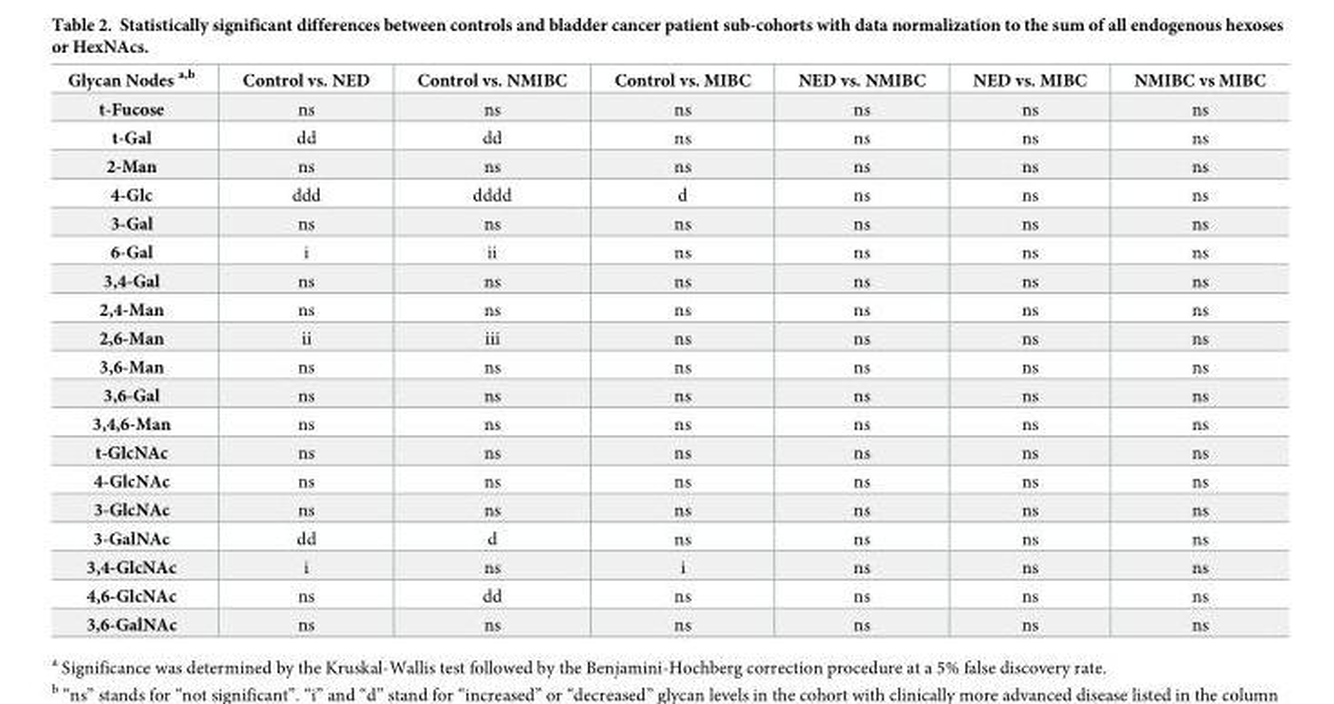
<table><thead><tr><td>Glycan Nodes <sup>a,b</sup></td><td>Control vs. NED</td><td>Control vs. NMIBC</td><td>Control vs. MIBC</td><td>NED vs. NMIBC</td><td>NED vs. MIBC</td><td>NMIBC vs MIBC</td></tr></thead><tbody><tr><td>t-Fucose</td><td>ns</td><td>ns</td><td>ns</td><td>ns</td><td>ns</td><td>ns</td></tr><tr><td>t-Gal</td><td>dd</td><td>dd</td><td>ns</td><td>ns</td><td>ns</td><td>ns</td></tr><tr><td>2-Man</td><td>ns</td><td>ns</td><td>ns</td><td>ns</td><td>ns</td><td>ns</td></tr><tr><td>4-Glc</td><td>ddd</td><td>dddd</td><td>d</td><td>ns</td><td>ns</td><td>ns</td></tr><tr><td>3-Gal</td><td>ns</td><td>ns</td><td>ns</td><td>ns</td><td>ns</td><td>ns</td></tr><tr><td>6-Gal</td><td>i</td><td>ii</td><td>ns</td><td>ns</td><td>ns</td><td>ns</td></tr><tr><td>3,4-Gal</td><td>ns</td><td>ns</td><td>ns</td><td>ns</td><td>ns</td><td>ns</td></tr><tr><td>2,4-Man</td><td>ns</td><td>ns</td><td>ns</td><td>ns</td><td>ns</td><td>ns</td></tr><tr><td>2,6-Man</td><td>ii</td><td>iii</td><td>ns</td><td>ns</td><td>ns</td><td>ns</td></tr><tr><td>3,6-Man</td><td>ns</td><td>ns</td><td>ns</td><td>ns</td><td>ns</td><td>ns</td></tr><tr><td>3,6-Gal</td><td>ns</td><td>ns</td><td>ns</td><td>ns</td><td>ns</td><td>ns</td></tr><tr><td>3,4,6-Man</td><td>ns</td><td>ns</td><td>ns</td><td>ns</td><td>ns</td><td>ns</td></tr><tr><td>t-GlcNAc</td><td>ns</td><td>ns</td><td>ns</td><td>ns</td><td>ns</td><td>ns</td></tr><tr><td>4-GlcNAc</td><td>ns</td><td>ns</td><td>ns</td><td>ns</td><td>ns</td><td>ns</td></tr><tr><td>3-GlcNAc</td><td>ns</td><td>ns</td><td>ns</td><td>ns</td><td>ns</td><td>ns</td></tr><tr><td>3-GalNAc</td><td>dd</td><td>d</td><td>ns</td><td>ns</td><td>ns</td><td>ns</td></tr><tr><td>3,4-GlcNAc</td><td>i</td><td>ns</td><td>i</td><td>ns</td><td>ns</td><td>ns</td></tr><tr><td>4,6-GlcNAc</td><td>ns</td><td>dd</td><td>ns</td><td>ns</td><td>ns</td><td>ns</td></tr><tr><td>3,6-GalNAc</td><td>ns</td><td>ns</td><td>ns</td><td>ns</td><td>ns</td><td>ns</td></tr></tbody></table>